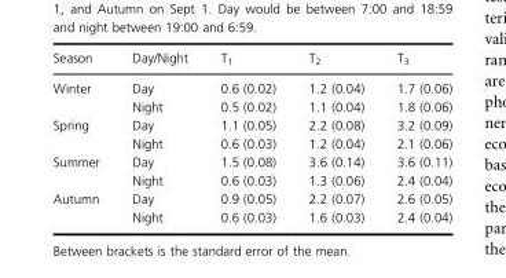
<table><thead><tr><td>Season</td><td>Day/Night</td><td>T<sub>1</sub></td><td>T<sub>2</sub></td><td>T<sub>3</sub></td></tr></thead><tbody><tr><td rowspan="2">Winter</td><td>Day</td><td>0.6 (0.02)</td><td>1.2 (0.04)</td><td>1.7 (0.06)</td></tr><tr><td>Night</td><td>0.5 (0.02)</td><td>1.1 (0.04)</td><td>1.8 (0.06)</td></tr><tr><td rowspan="2">Spring</td><td>Day</td><td>1.1 (0.05)</td><td>2.2 (0.08)</td><td>3.2 (0.09)</td></tr><tr><td>Night</td><td>0.6 (0.03)</td><td>1.2 (0.04)</td><td>2.1 (0.06)</td></tr><tr><td rowspan="2">Summer</td><td>Day</td><td>1.5 (0.08)</td><td>3.6 (0.14)</td><td>3.6 (0.11)</td></tr><tr><td>Night</td><td>0.6 (0.03)</td><td>1.3 (0.06)</td><td>2.4 (0.04)</td></tr><tr><td rowspan="2">Autumn</td><td>Day</td><td>0.9 (0.05)</td><td>2.2 (0.07)</td><td>2.6 (0.05)</td></tr><tr><td>Night</td><td>0.6 (0.03)</td><td>1.6 (0.03)</td><td>2.4 (0.04)</td></tr></tbody></table>